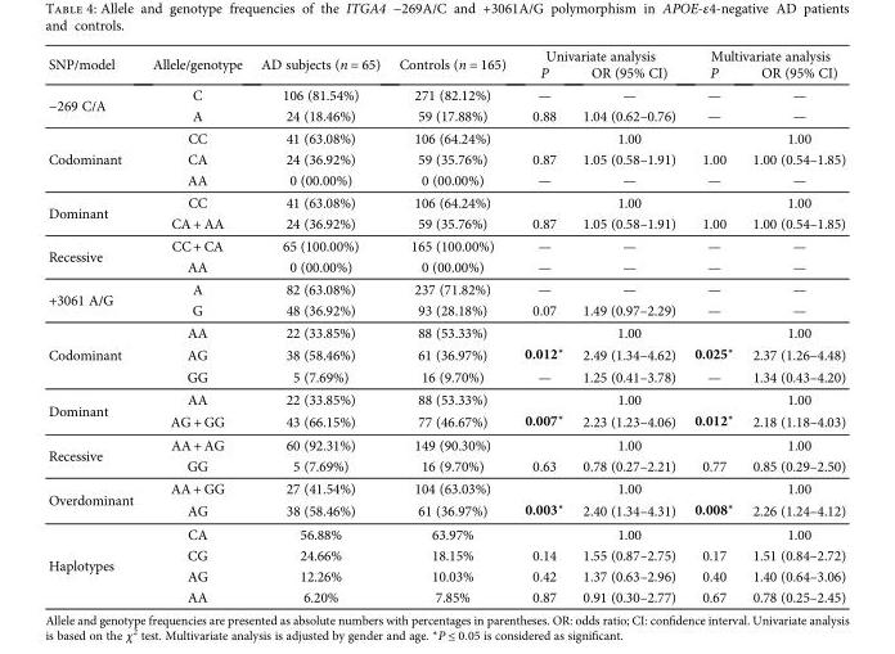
<table><thead><tr><td rowspan="2">SNP/model</td><td rowspan="2">Allele/genotype</td><td rowspan="2">AD subjects (n = 65)</td><td rowspan="2">Controls (n = 165)</td><td colspan="2">Univariate analysis</td><td colspan="2">Multivariate analysis</td></tr><tr><td>P</td><td>OR (95% CI)</td><td>P</td><td>OR (95% CI)</td></tr></thead><tbody><tr><td rowspan="2">−269 C/A</td><td>C</td><td>106 (81.54%)</td><td>271 (82.12%)</td><td>—</td><td>—</td><td>—</td><td>—</td></tr><tr><td>A</td><td>24 (18.46%)</td><td>59 (17.88%)</td><td>0.88</td><td>1.04 (0.62–0.76)</td><td>—</td><td>—</td></tr><tr><td rowspan="3">Codominant</td><td>CC</td><td>41 (63.08%)</td><td>106 (64.24%)</td><td></td><td>1.00</td><td></td><td>1.00</td></tr><tr><td>CA</td><td>24 (36.92%)</td><td>59 (35.76%)</td><td>0.87</td><td>1.05 (0.58–1.91)</td><td>1.00</td><td>1.00 (0.54–1.85)</td></tr><tr><td>AA</td><td>0 (00.00%)</td><td>0 (00.00%)</td><td>—</td><td>—</td><td>—</td><td>—</td></tr><tr><td rowspan="2">Dominant</td><td>CC</td><td>41 (63.08%)</td><td>106 (64.24%)</td><td></td><td>1.00</td><td></td><td>1.00</td></tr><tr><td>CA + AA</td><td>24 (36.92%)</td><td>59 (35.76%)</td><td>0.87</td><td>1.05 (0.58–1.91)</td><td>1.00</td><td>1.00 (0.54–1.85)</td></tr><tr><td rowspan="2">Recessive</td><td>CC + CA</td><td>65 (100.00%)</td><td>165 (100.00%)</td><td>—</td><td>—</td><td>—</td><td>—</td></tr><tr><td>AA</td><td>0 (00.00%)</td><td>0 (00.00%)</td><td>—</td><td>—</td><td>—</td><td>—</td></tr><tr><td rowspan="2">+3061 A/G</td><td>A</td><td>82 (63.08%)</td><td>237 (71.82%)</td><td>—</td><td>—</td><td>—</td><td>—</td></tr><tr><td>G</td><td>48 (36.92%)</td><td>93 (28.18%)</td><td>0.07</td><td>1.49 (0.97–2.29)</td><td>—</td><td>—</td></tr><tr><td rowspan="3">Codominant</td><td>AA</td><td>22 (33.85%)</td><td>88 (53.33%)</td><td></td><td>1.00</td><td></td><td>1.00</td></tr><tr><td>AG</td><td>38 (58.46%)</td><td>61 (36.97%)</td><td>0.012∗</td><td>2.49 (1.34–4.62)</td><td>0.025∗</td><td>2.37 (1.26–4.48)</td></tr><tr><td>GG</td><td>5 (7.69%)</td><td>16 (9.70%)</td><td>—</td><td>1.25 (0.41–3.78)</td><td>—</td><td>1.34 (0.43–4.20)</td></tr><tr><td rowspan="2">Dominant</td><td>AA</td><td>22 (33.85%)</td><td>88 (53.33%)</td><td></td><td>1.00</td><td></td><td>1.00</td></tr><tr><td>AG + GG</td><td>43 (66.15%)</td><td>77 (46.67%)</td><td>0.007∗</td><td>2.23 (1.23–4.06)</td><td>0.012∗</td><td>2.18 (1.18–4.03)</td></tr><tr><td rowspan="2">Recessive</td><td>AA + AG</td><td>60 (92.31%)</td><td>149 (90.30%)</td><td></td><td>1.00</td><td></td><td>1.00</td></tr><tr><td>GG</td><td>5 (7.69%)</td><td>16 (9.70%)</td><td>0.63</td><td>0.78 (0.27–2.21)</td><td>0.77</td><td>0.85 (0.29–2.50)</td></tr><tr><td rowspan="2">Overdominant</td><td>AA + GG</td><td>27 (41.54%)</td><td>104 (63.03%)</td><td></td><td>1.00</td><td></td><td>1.00</td></tr><tr><td>AG</td><td>38 (58.46%)</td><td>61 (36.97%)</td><td>0.003∗</td><td>2.40 (1.34–4.31)</td><td>0.008∗</td><td>2.26 (1.24–4.12)</td></tr><tr><td rowspan="4">Haplotypes</td><td>CA</td><td>56.88%</td><td>63.97%</td><td></td><td>1.00</td><td></td><td>1.00</td></tr><tr><td>CG</td><td>24.66%</td><td>18.15%</td><td>0.14</td><td>1.55 (0.87–2.75)</td><td>0.17</td><td>1.51 (0.84–2.72)</td></tr><tr><td>AG</td><td>12.26%</td><td>10.03%</td><td>0.42</td><td>1.37 (0.63–2.96)</td><td>0.40</td><td>1.40 (0.64–3.06)</td></tr><tr><td>AA</td><td>6.20%</td><td>7.85%</td><td>0.87</td><td>0.91 (0.30–2.77)</td><td>0.67</td><td>0.78 (0.25–2.45)</td></tr></tbody></table>